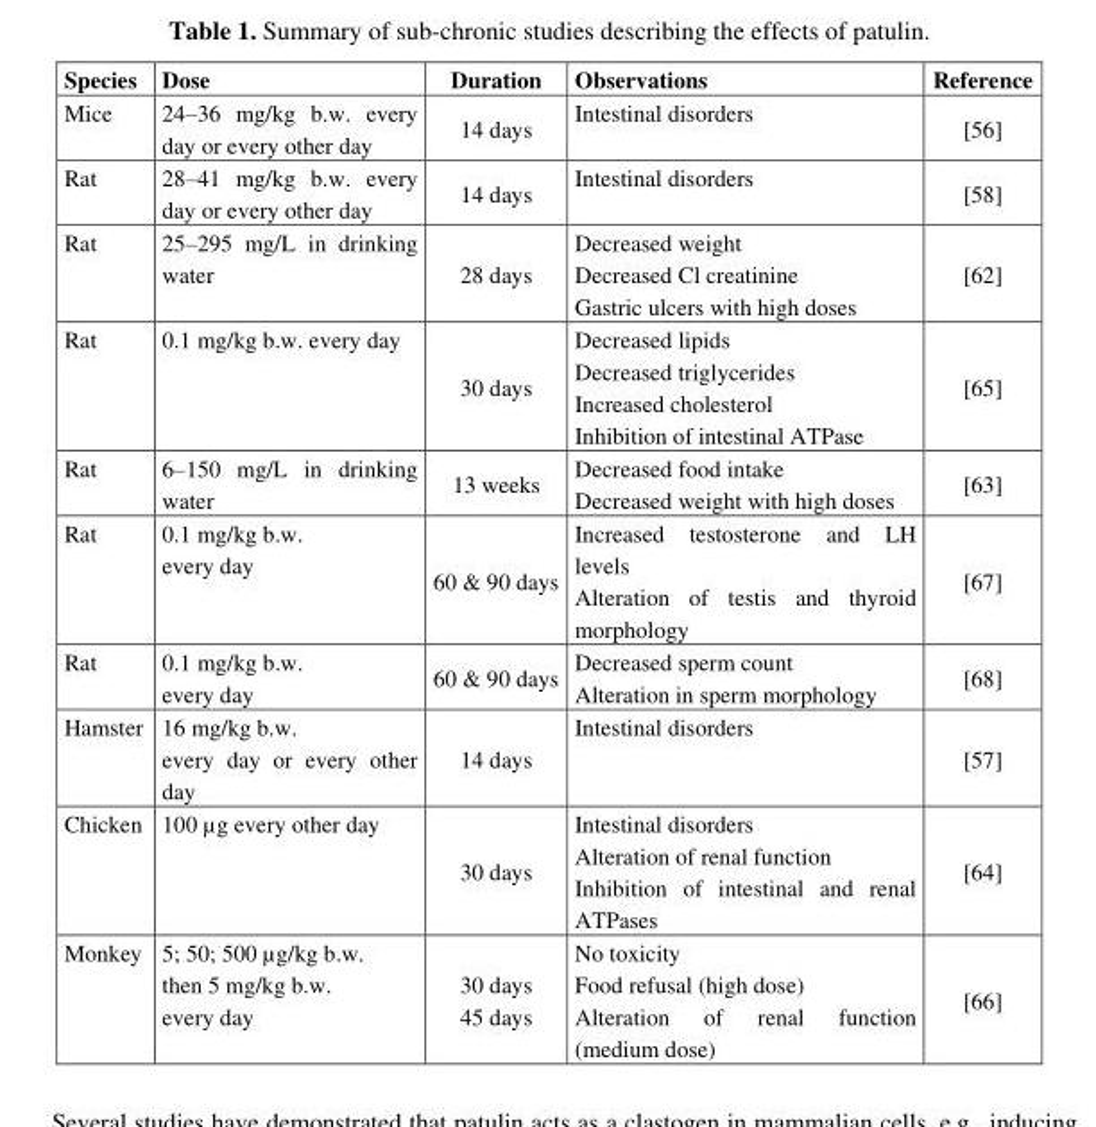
<table><thead><tr><td>Species</td><td>Dose</td><td>Duration</td><td>Observations</td><td>Reference</td></tr></thead><tbody><tr><td>Mice</td><td>24–36 mg/kg b.w. every day or every other day</td><td>14 days</td><td>Intestinal disorders</td><td>[56]</td></tr><tr><td>Rat</td><td>28–41 mg/kg b.w. every day or every other day</td><td>14 days</td><td>Intestinal disorders</td><td>[58]</td></tr><tr><td rowspan="3">Rat</td><td rowspan="3">25–295 mg/L in drinking water</td><td rowspan="3">28 days</td><td>Decreased weight</td><td rowspan="3">[62]</td></tr><tr><td>Decreased Cl creatinine</td></tr><tr><td>Gastric ulcers with high doses</td></tr><tr><td rowspan="4">Rat</td><td rowspan="4">0.1 mg/kg b.w. every day</td><td rowspan="4">30 days</td><td>Decreased lipids</td><td rowspan="4">[65]</td></tr><tr><td>Decreased triglycerides</td></tr><tr><td>Increased cholesterol</td></tr><tr><td>Inhibition of intestinal ATPase</td></tr><tr><td rowspan="2">Rat</td><td rowspan="2">6–150 mg/L in drinking water</td><td rowspan="2">13 weeks</td><td>Decreased food intake</td><td rowspan="2">[63]</td></tr><tr><td>Decreased weight with high doses</td></tr><tr><td rowspan="2">Rat</td><td rowspan="2">0.1 mg/kg b.w. every day</td><td rowspan="2">60 &amp; 90 days</td><td>Increased testosterone and LH levels</td><td rowspan="2">[67]</td></tr><tr><td>Alteration of testis and thyroid morphology</td></tr><tr><td rowspan="2">Rat</td><td rowspan="2">0.1 mg/kg b.w. every day</td><td rowspan="2">60 &amp; 90 days</td><td>Decreased sperm count</td><td rowspan="2">[68]</td></tr><tr><td>Alteration in sperm morphology</td></tr><tr><td>Hamster</td><td>16 mg/kg b.w. every day or every other day</td><td>14 days</td><td>Intestinal disorders</td><td>[57]</td></tr><tr><td rowspan="3">Chicken</td><td rowspan="3">100 µg every other day</td><td rowspan="3">30 days</td><td>Intestinal disorders</td><td rowspan="3">[64]</td></tr><tr><td>Alteration of renal function</td></tr><tr><td>Inhibition of intestinal and renal ATPases</td></tr><tr><td rowspan="3">Monkey</td><td rowspan="3">5; 50; 500 µg/kg b.w. then 5 mg/kg b.w. every day</td><td rowspan="3">30 days 45 days</td><td>No toxicity</td><td rowspan="3">[66]</td></tr><tr><td>Food refusal (high dose)</td></tr><tr><td>Alteration of renal function (medium dose)</td></tr></tbody></table>